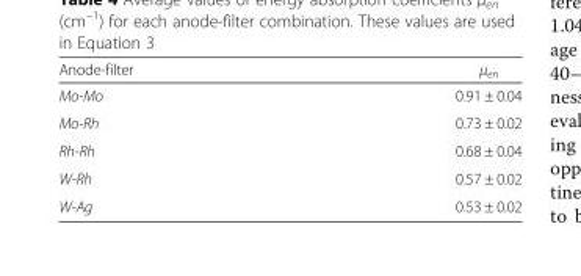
<table><thead><tr><td>Anode-filter</td><td>μ<sub>en</sub></td></tr></thead><tbody><tr><td>Mo-Mo</td><td>0.91 ± 0.04</td></tr><tr><td>Mo-Rh</td><td>0.73 ± 0.02</td></tr><tr><td>Rh-Rh</td><td>0.68 ± 0.04</td></tr><tr><td>W-Rh</td><td>0.57 ± 0.02</td></tr><tr><td>W-Ag</td><td>0.53 ± 0.02</td></tr></tbody></table>